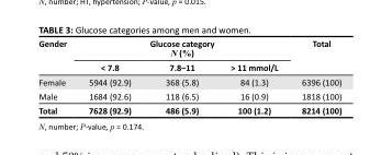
<table><thead><tr><td rowspan="2">Gender</td><td colspan="3">Glucose category N (%)</td><td rowspan="2">Total</td></tr><tr><td>&lt; 7.8</td><td>7.8–11</td><td>&gt; 11 mmol/L</td></tr></thead><tbody><tr><td>Female</td><td>5944 (92.9)</td><td>368 (5.8)</td><td>84 (1.3)</td><td>6396 (100)</td></tr><tr><td>Male</td><td>1684 (92.6)</td><td>118 (6.5)</td><td>16 (0.9)</td><td>1818 (100)</td></tr><tr><td>Total</td><td>7628 (92.9)</td><td>486 (5.9)</td><td>100 (1.2)</td><td>8214 (100)</td></tr></tbody></table>